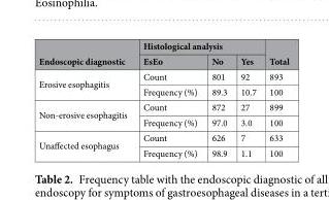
<table><thead><tr><td rowspan="2">Endoscopic diagnostic</td><td colspan="3">Histological analysis</td><td rowspan="2">Total</td></tr><tr><td>EsEo</td><td>No</td><td>Yes</td></tr></thead><tbody><tr><td rowspan="2">Erosive esophagitis</td><td>Count</td><td>801</td><td>92</td><td>893</td></tr><tr><td>Frequency (%)</td><td>89.3</td><td>10.7</td><td>100</td></tr><tr><td rowspan="2">Non-erosive esophagitis</td><td>Count</td><td>872</td><td>27</td><td>899</td></tr><tr><td>Frequency (%)</td><td>97.0</td><td>3.0</td><td>100</td></tr><tr><td rowspan="2">Unaffected esophagus</td><td>Count</td><td>626</td><td>7</td><td>633</td></tr><tr><td>Frequency (%)</td><td>98.9</td><td>1.1</td><td>100</td></tr></tbody></table>